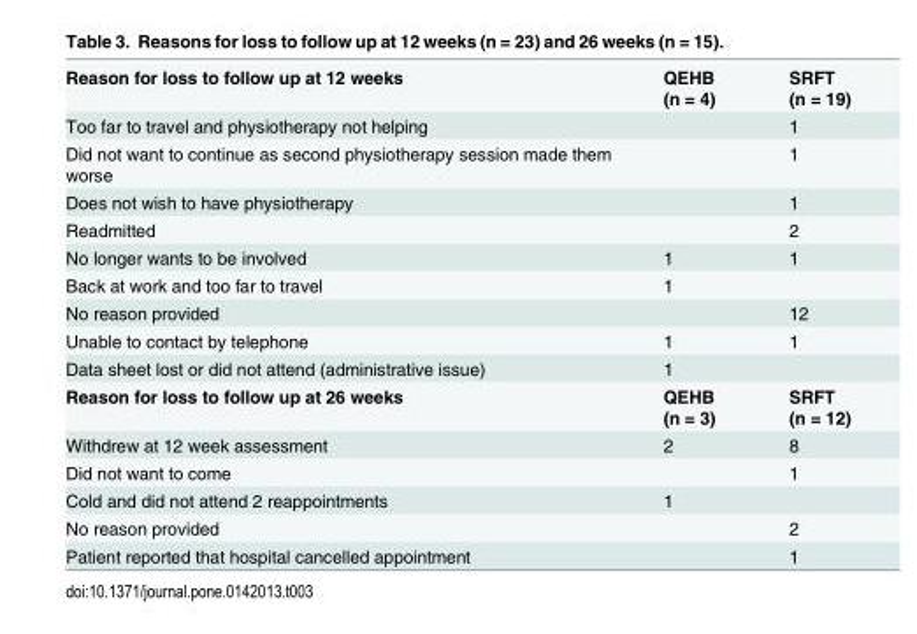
<table><tbody><tr><td>Reason for loss to follow up at 12 weeks</td><td>QEHB (n = 4)</td><td>SRFT (n = 19)</td></tr><tr><td>Too far to travel and physiotherapy not helping</td><td></td><td>1</td></tr><tr><td>Did not want to continue as second physiotherapy session made them worse</td><td></td><td>1</td></tr><tr><td>Does not wish to have physiotherapy</td><td></td><td>1</td></tr><tr><td>Readmitted</td><td></td><td>2</td></tr><tr><td>No longer wants to be involved</td><td>1</td><td>1</td></tr><tr><td>Back at work and too far to travel</td><td>1</td><td></td></tr><tr><td>No reason provided</td><td></td><td>12</td></tr><tr><td>Unable to contact by telephone</td><td>1</td><td>1</td></tr><tr><td>Data sheet lost or did not attend (administrative issue)</td><td>1</td><td></td></tr><tr><td>Reason for loss to follow up at 26 weeks</td><td>QEHB (n = 3)</td><td>SRFT (n = 12)</td></tr><tr><td>Withdrew at 12 week assessment</td><td>2</td><td>8</td></tr><tr><td>Did not want to come</td><td></td><td>1</td></tr><tr><td>Cold and did not attend 2 reappointments</td><td>1</td><td></td></tr><tr><td>No reason provided</td><td></td><td>2</td></tr><tr><td>Patient reported that hospital cancelled appointment</td><td></td><td>1</td></tr></tbody></table>